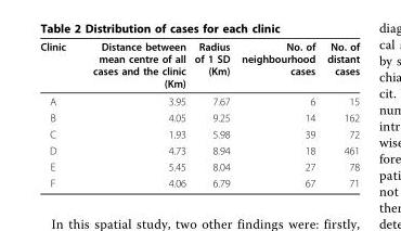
<table><thead><tr><td>Clinic</td><td>Distance between mean centre of all cases and the clinic (Km)</td><td>Radius of 1 SD (Km)</td><td>No. of neighbourhood cases</td><td>No. of distant cases</td></tr></thead><tbody><tr><td>A</td><td>3.95</td><td>7.67</td><td>6</td><td>15</td></tr><tr><td>B</td><td>4.05</td><td>9.25</td><td>14</td><td>162</td></tr><tr><td>C</td><td>1.93</td><td>5.98</td><td>39</td><td>72</td></tr><tr><td>D</td><td>4.73</td><td>8.94</td><td>18</td><td>461</td></tr><tr><td>E</td><td>5.45</td><td>8.04</td><td>27</td><td>78</td></tr><tr><td>F</td><td>4.06</td><td>6.79</td><td>67</td><td>71</td></tr></tbody></table>